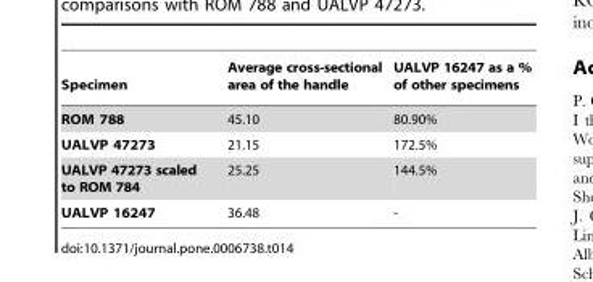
<table><thead><tr><td>Specimen</td><td>Average cross-sectional area of the handle</td><td>UALVP 16247 as a % of other specimens</td></tr></thead><tbody><tr><td>ROM 788</td><td>45.10</td><td>80.90%</td></tr><tr><td>UALVP 47273</td><td>21.15</td><td>172.5%</td></tr><tr><td>UALVP 47273 scaled to ROM 784</td><td>25.25</td><td>144.5%</td></tr><tr><td>UALVP 16247</td><td>36.48</td><td>-</td></tr></tbody></table>